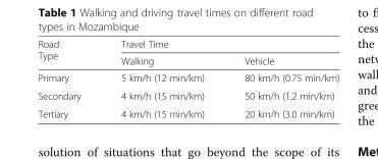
<table><thead><tr><td rowspan="2">Road Type</td><td colspan="2">Travel Time</td></tr><tr><td>Walking</td><td>Vehicle</td></tr></thead><tbody><tr><td>Primary</td><td>5 km/h (12 min/km)</td><td>80 km/h (0.75 min/km)</td></tr><tr><td>Secondary</td><td>4 km/h (15 min/km)</td><td>50 km/h (1.2 min/km)</td></tr><tr><td>Tertiary</td><td>4 km/h (15 min/km)</td><td>20 km/h (3.0 min/km)</td></tr></tbody></table>